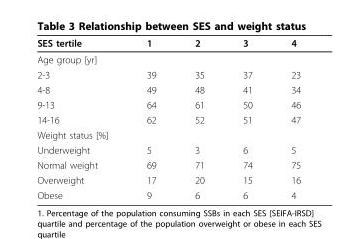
<table><thead><tr><td>SES tertile</td><td>1</td><td>2</td><td>3</td><td>4</td></tr></thead><tbody><tr><td colspan="5">Age group [yr]</td></tr><tr><td>2-3</td><td>39</td><td>35</td><td>37</td><td>23</td></tr><tr><td>4-8</td><td>49</td><td>48</td><td>41</td><td>34</td></tr><tr><td>9-13</td><td>64</td><td>61</td><td>50</td><td>46</td></tr><tr><td>14-16</td><td>62</td><td>52</td><td>51</td><td>47</td></tr><tr><td colspan="5">Weight status [%]</td></tr><tr><td>Underweight</td><td>5</td><td>3</td><td>6</td><td>5</td></tr><tr><td>Normal weight</td><td>69</td><td>71</td><td>74</td><td>75</td></tr><tr><td>Overweight</td><td>17</td><td>20</td><td>15</td><td>16</td></tr><tr><td>Obese</td><td>9</td><td>6</td><td>6</td><td>4</td></tr></tbody></table>